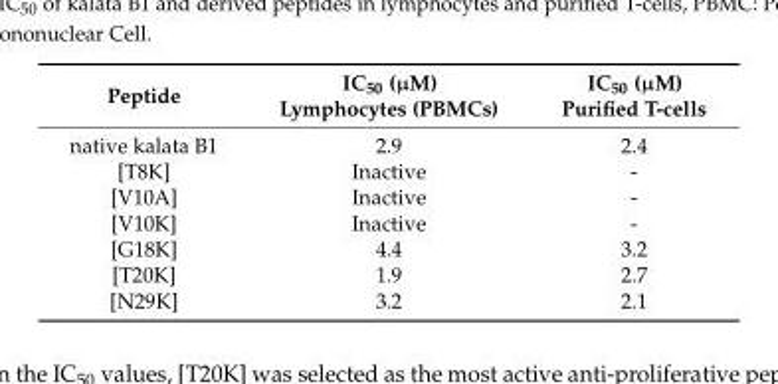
<table><thead><tr><td>Peptide</td><td>IC<sub>50</sub> (µM) Lymphocytes (PBMCs)</td><td>IC<sub>50</sub> (µM) Purified T-cells</td></tr></thead><tbody><tr><td>native kalata B1</td><td>2.9</td><td>2.4</td></tr><tr><td>[T8K]</td><td>Inactive</td><td>-</td></tr><tr><td>[V10A]</td><td>Inactive</td><td>-</td></tr><tr><td>[V10K]</td><td>Inactive</td><td>-</td></tr><tr><td>[G18K]</td><td>4.4</td><td>3.2</td></tr><tr><td>[T20K]</td><td>1.9</td><td>2.7</td></tr><tr><td>[N29K]</td><td>3.2</td><td>2.1</td></tr></tbody></table>